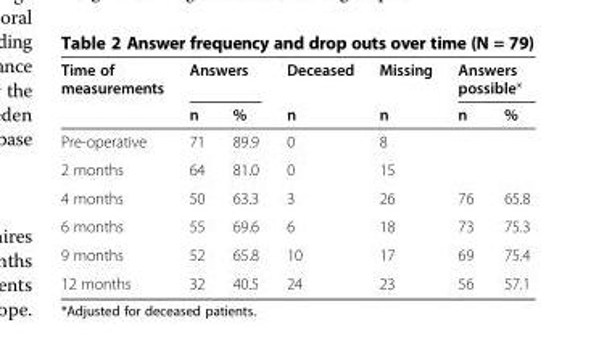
<table><thead><tr><td rowspan="2">Time of measurements</td><td colspan="2">Answers</td><td rowspan="2">Deceased n</td><td rowspan="2">Missing n</td><td colspan="2">Answers possible*</td></tr><tr><td>n</td><td>%</td><td>n</td><td>%</td></tr></thead><tbody><tr><td>Pre-operative</td><td>71</td><td>89.9</td><td>0</td><td>8</td><td></td><td></td></tr><tr><td>2 months</td><td>64</td><td>81.0</td><td>0</td><td>15</td><td></td><td></td></tr><tr><td>4 months</td><td>50</td><td>63.3</td><td>3</td><td>26</td><td>76</td><td>65.8</td></tr><tr><td>6 months</td><td>55</td><td>69.6</td><td>6</td><td>18</td><td>73</td><td>75.3</td></tr><tr><td>9 months</td><td>52</td><td>65.8</td><td>10</td><td>17</td><td>69</td><td>75.4</td></tr><tr><td>12 months</td><td>32</td><td>40.5</td><td>24</td><td>23</td><td>56</td><td>57.1</td></tr></tbody></table>